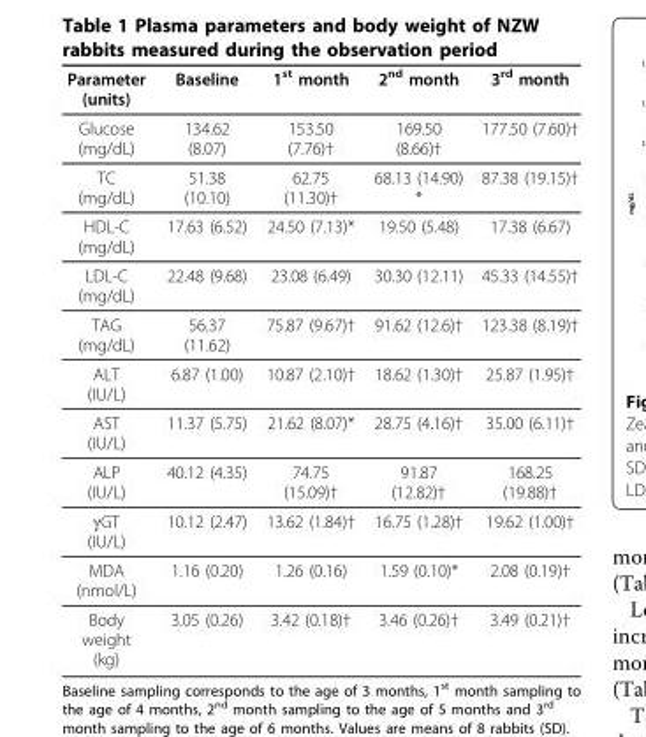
<table><thead><tr><td>Parameter (units)</td><td>Baseline</td><td>1<sup>st</sup> month</td><td>2<sup>nd</sup> month</td><td>3<sup>rd</sup> month</td></tr></thead><tbody><tr><td>Glucose (mg/dL)</td><td>134.62 (8.07)</td><td>153.50 (7.76)†</td><td>169.50 (8.66)†</td><td>177.50 (7.60)†</td></tr><tr><td>TC (mg/dL)</td><td>51.38 (10.10)</td><td>62.75 (11.30)†</td><td>68.13 (14.90) *</td><td>87.38 (19.15)†</td></tr><tr><td>HDL-C (mg/dL)</td><td>17.63 (6.52)</td><td>24.50 (7.13)*</td><td>19.50 (5.48)</td><td>17.38 (6.67)</td></tr><tr><td>LDL-C (mg/dL)</td><td>22.48 (9.68)</td><td>23.08 (6.49)</td><td>30.30 (12.11)</td><td>45.33 (14.55)†</td></tr><tr><td>TAG (mg/dL)</td><td>56.37 (11.62)</td><td>75.87 (9.67)†</td><td>91.62 (12.6)†</td><td>123.38 (8.19)†</td></tr><tr><td>ALT (IU/L)</td><td>6.87 (1.00)</td><td>10.87 (2.10)†</td><td>18.62 (1.30)†</td><td>25.87 (1.95)†</td></tr><tr><td>AST (IU/L)</td><td>11.37 (5.75)</td><td>21.62 (8.07)*</td><td>28.75 (4.16)†</td><td>35.00 (6.11)†</td></tr><tr><td>ALP (IU/L)</td><td>40.12 (4.35)</td><td>74.75 (15.09)†</td><td>91.87 (12.82)†</td><td>168.25 (19.88)†</td></tr><tr><td>γGT (IU/L)</td><td>10.12 (2.47)</td><td>13.62 (1.84)†</td><td>16.75 (1.28)†</td><td>19.62 (1.00)†</td></tr><tr><td>MDA (nmol/L)</td><td>1.16 (0.20)</td><td>1.26 (0.16)</td><td>1.59 (0.10)*</td><td>2.08 (0.19)†</td></tr><tr><td>Body weight (kg)</td><td>3.05 (0.26)</td><td>3.42 (0.18)†</td><td>3.46 (0.26)†</td><td>3.49 (0.21)†</td></tr></tbody></table>